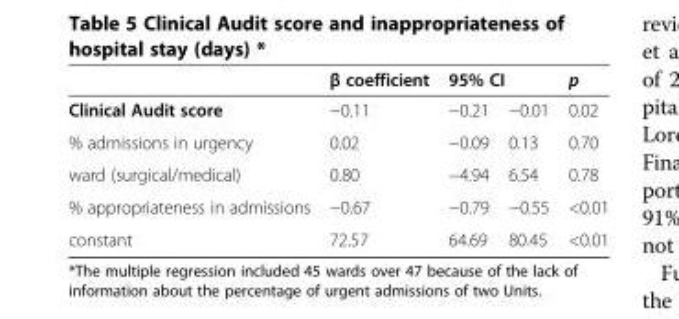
<table><thead><tr><td rowspan="2">Clinical Audit score</td><td rowspan="2">β coefficient −0.11</td><td colspan="2">95% CI</td><td rowspan="2">p 0.02</td></tr><tr><td>−0.21</td><td>−0.01</td></tr></thead><tbody><tr><td>% admissions in urgency</td><td>0.02</td><td>−0.09</td><td>0.13</td><td>0.70</td></tr><tr><td>ward (surgical/medical)</td><td>0.80</td><td>−4.94</td><td>6.54</td><td>0.78</td></tr><tr><td>% appropriateness in admissions</td><td>−0.67</td><td>−0.79</td><td>−0.55</td><td>&lt;0.01</td></tr><tr><td>constant</td><td>72.57</td><td>64.69</td><td>80.45</td><td>&lt;0.01</td></tr></tbody></table>